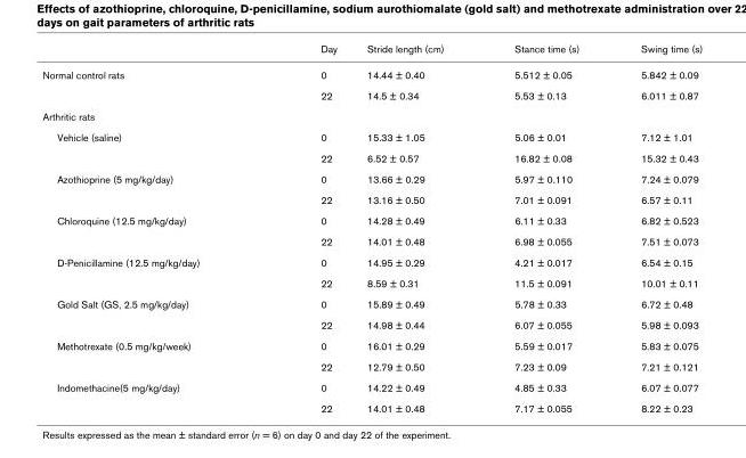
<table><thead><tr><td></td><td>Day</td><td>Stride length (cm)</td><td>Stance time (s)</td><td>Swing time (s)</td></tr></thead><tbody><tr><td rowspan="2">Normal control rats</td><td>0</td><td>14.44 ± 0.40</td><td>5.512 ± 0.05</td><td>5.842 ± 0.09</td></tr><tr><td>22</td><td>14.5 ± 0.34</td><td>5.53 ± 0.13</td><td>6.011 ± 0.87</td></tr><tr><td colspan="5">Arthritic rats</td></tr><tr><td rowspan="2">Vehicle (saline)</td><td>0</td><td>15.33 ± 1.05</td><td>5.06 ± 0.01</td><td>7.12 ± 1.01</td></tr><tr><td>22</td><td>6.52 ± 0.57</td><td>16.82 ± 0.08</td><td>15.32 ± 0.43</td></tr><tr><td rowspan="2">Azothioprine (5 mg/kg/day)</td><td>0</td><td>13.66 ± 0.29</td><td>5.97 ± 0.110</td><td>7.24 ± 0.079</td></tr><tr><td>22</td><td>13.16 ± 0.50</td><td>7.01 ± 0.091</td><td>6.57 ± 0.11</td></tr><tr><td rowspan="2">Chloroquine (12.5 mg/kg/day)</td><td>0</td><td>14.28 ± 0.49</td><td>6.11 ± 0.33</td><td>6.82 ± 0.523</td></tr><tr><td>22</td><td>14.01 ± 0.48</td><td>6.98 ± 0.055</td><td>7.51 ± 0.073</td></tr><tr><td rowspan="2">D-Penicillamine (12.5 mg/kg/day)</td><td>0</td><td>14.95 ± 0.29</td><td>4.21 ± 0.017</td><td>6.54 ± 0.15</td></tr><tr><td>22</td><td>8.59 ± 0.31</td><td>11.5 ± 0.091</td><td>10.01 ± 0.11</td></tr><tr><td rowspan="2">Gold Salt (GS, 2.5 mg/kg/day)</td><td>0</td><td>15.89 ± 0.49</td><td>5.78 ± 0.33</td><td>6.72 ± 0.48</td></tr><tr><td>22</td><td>14.98 ± 0.44</td><td>6.07 ± 0.055</td><td>5.98 ± 0.093</td></tr><tr><td rowspan="2">Methotrexate (0.5 mg/kg/week)</td><td>0</td><td>16.01 ± 0.29</td><td>5.59 ± 0.017</td><td>5.83 ± 0.075</td></tr><tr><td>22</td><td>12.79 ± 0.50</td><td>7.23 ± 0.09</td><td>7.21 ± 0.121</td></tr><tr><td rowspan="2">Indomethacine(5 mg/kg/day)</td><td>0</td><td>14.22 ± 0.49</td><td>4.85 ± 0.33</td><td>6.07 ± 0.077</td></tr><tr><td>22</td><td>14.01 ± 0.48</td><td>7.17 ± 0.055</td><td>8.22 ± 0.23</td></tr></tbody></table>